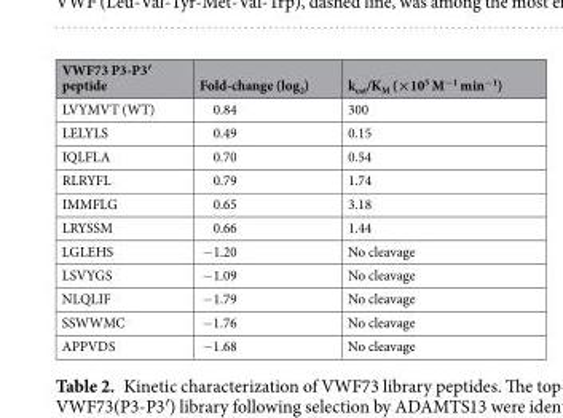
<table><thead><tr><td>VWF73 P3-P3′ peptide</td><td>Fold-change (log<sub>2</sub>)</td><td>k<sub>cat</sub>/K<sub>M</sub> (×10<sup>5</sup> M<sup>−1</sup> min<sup>−1</sup>)</td></tr></thead><tbody><tr><td>LVYMVT (WT)</td><td>0.84</td><td>300</td></tr><tr><td>LELYLS</td><td>0.49</td><td>0.15</td></tr><tr><td>IQLFLA</td><td>0.70</td><td>0.54</td></tr><tr><td>RLRYFL</td><td>0.79</td><td>1.74</td></tr><tr><td>IMMFLG</td><td>0.65</td><td>3.18</td></tr><tr><td>LRYSSM</td><td>0.66</td><td>1.44</td></tr><tr><td>LGLEHS</td><td>−1.20</td><td>No cleavage</td></tr><tr><td>LSVYGS</td><td>−1.09</td><td>No cleavage</td></tr><tr><td>NLQLIF</td><td>−1.79</td><td>No cleavage</td></tr><tr><td>SSWWMC</td><td>−1.76</td><td>No cleavage</td></tr><tr><td>APPVDS</td><td>−1.68</td><td>No cleavage</td></tr></tbody></table>